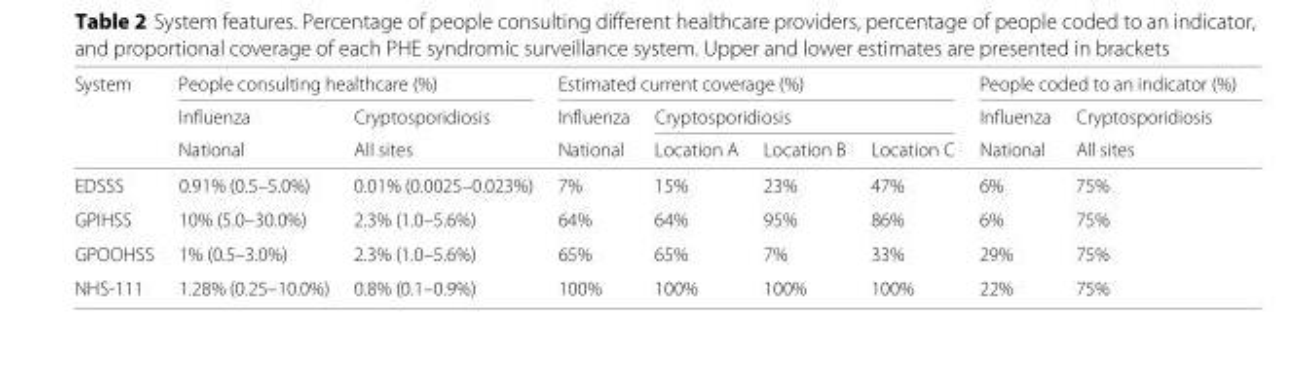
<table><thead><tr><td rowspan="3">System</td><td colspan="2">People consulting healthcare (%)</td><td colspan="4">Estimated current coverage (%)</td><td colspan="2">People coded to an indicator (%)</td></tr><tr><td rowspan="2">Influenza National</td><td rowspan="2">Cryptosporidiosis All sites</td><td rowspan="2">Influenza National</td><td colspan="3">Cryptosporidiosis</td><td rowspan="2">Influenza National</td><td rowspan="2">Cryptosporidiosis All sites</td></tr><tr><td>Location A</td><td>Location B</td><td>Location C</td></tr></thead><tbody><tr><td>EDSSS</td><td>0.91% (0.5–5.0%)</td><td>0.01% (0.0025–0.023%)</td><td>7%</td><td>15%</td><td>23%</td><td>47%</td><td>6%</td><td>75%</td></tr><tr><td>GPIHSS</td><td>10% (5.0–30.0%)</td><td>2.3% (1.0–5.6%)</td><td>64%</td><td>64%</td><td>95%</td><td>86%</td><td>6%</td><td>75%</td></tr><tr><td>GPOOHSS</td><td>1% (0.5–3.0%)</td><td>2.3% (1.0–5.6%)</td><td>65%</td><td>65%</td><td>7%</td><td>33%</td><td>29%</td><td>75%</td></tr><tr><td>NHS-111</td><td>1.28% (0.25–10.0%)</td><td>0.8% (0.1–0.9%)</td><td>100%</td><td>100%</td><td>100%</td><td>100%</td><td>22%</td><td>75%</td></tr></tbody></table>